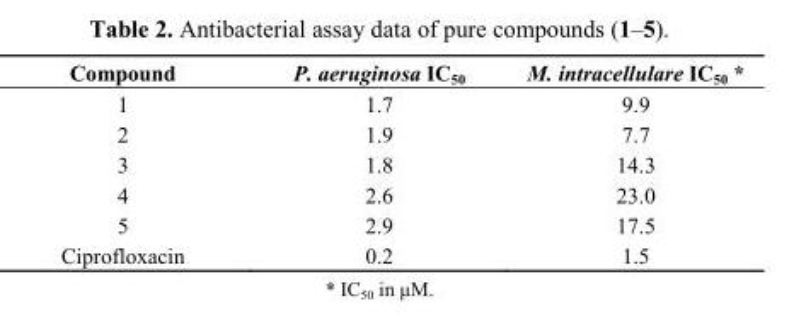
<table><thead><tr><td>Compound</td><td>P. aeruginosa IC<sub>50</sub></td><td>M. intracellulare IC<sub>50</sub> *</td></tr></thead><tbody><tr><td>1</td><td>1.7</td><td>9.9</td></tr><tr><td>2</td><td>1.9</td><td>7.7</td></tr><tr><td>3</td><td>1.8</td><td>14.3</td></tr><tr><td>4</td><td>2.6</td><td>23.0</td></tr><tr><td>5</td><td>2.9</td><td>17.5</td></tr><tr><td>Ciprofloxacin</td><td>0.2</td><td>1.5</td></tr></tbody></table>